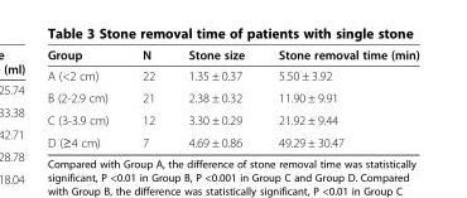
<table><thead><tr><td>Group</td><td>N</td><td>Stone size</td><td>Stone removal time (min)</td></tr></thead><tbody><tr><td>A (&lt;2 cm)</td><td>22</td><td>1.35 ± 0.37</td><td>5.50 ± 3.92</td></tr><tr><td>B (2-2.9 cm)</td><td>21</td><td>2.38 ± 0.32</td><td>11.90 ± 9.91</td></tr><tr><td>C (3-3.9 cm)</td><td>12</td><td>3.30 ± 0.29</td><td>21.92 ± 9.44</td></tr><tr><td>D (≥4 cm)</td><td>7</td><td>4.69 ± 0.86</td><td>49.29 ± 30.47</td></tr></tbody></table>